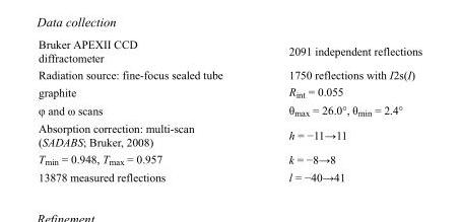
<table><tbody><tr><td>Bruker APEXII CCD diffractometer</td><td>2091 independent reflections</td></tr><tr><td>Radiation source: fine-focus sealed tube</td><td>1750 reflections with I2s(I)</td></tr><tr><td>graphite</td><td>R<sub>int</sub> = 0.055</td></tr><tr><td>φ and ω scans</td><td>θ<sub>max</sub> = 26.0°, θ<sub>min</sub> = 2.4°</td></tr><tr><td>Absorption correction: multi-scan (SADABS; Bruker, 2008)</td><td>h = −11→11</td></tr><tr><td>T<sub>min</sub> = 0.948, T<sub>max</sub> = 0.957</td><td>k = −8→8</td></tr><tr><td>13878 measured reflections</td><td>l = −40→41</td></tr></tbody></table>